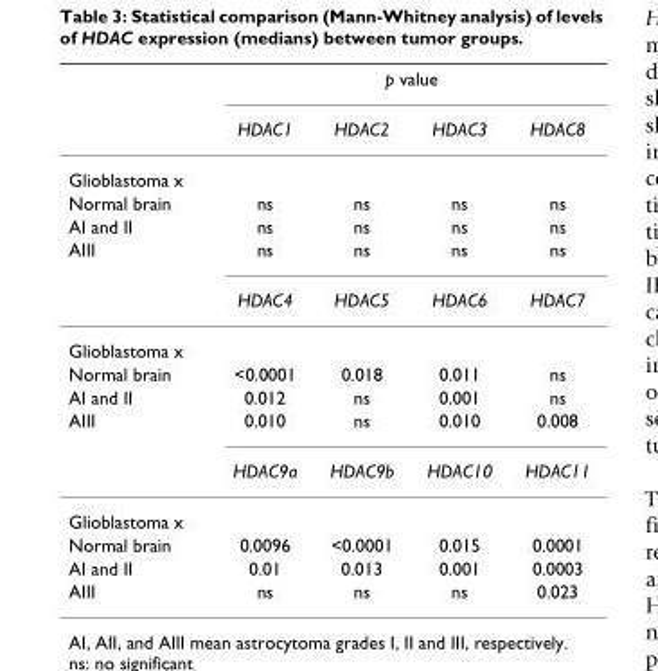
<table><thead><tr><td rowspan="2"></td><td colspan="4">p value</td></tr><tr><td>HDAC1</td><td>HDAC2</td><td>HDAC3</td><td>HDAC8</td></tr></thead><tbody><tr><td colspan="5">Glioblastoma x</td></tr><tr><td>Normal brain</td><td>ns</td><td>ns</td><td>ns</td><td>ns</td></tr><tr><td>AI and II</td><td>ns</td><td>ns</td><td>ns</td><td>ns</td></tr><tr><td rowspan="2">AIII</td><td>ns</td><td>ns</td><td>ns</td><td>ns</td></tr><tr><td>HDAC4</td><td>HDAC5</td><td>HDAC6</td><td>HDAC7</td></tr><tr><td colspan="5">Glioblastoma x</td></tr><tr><td>Normal brain</td><td>&lt;0.0001</td><td>0.018</td><td>0.011</td><td>ns</td></tr><tr><td>AI and II</td><td>0.012</td><td>ns</td><td>0.001</td><td>ns</td></tr><tr><td rowspan="2">AIII</td><td>0.010</td><td>ns</td><td>0.010</td><td>0.008</td></tr><tr><td>HDAC9a</td><td>HDAC9b</td><td>HDAC10</td><td>HDAC11</td></tr><tr><td colspan="5">Glioblastoma x</td></tr><tr><td>Normal brain</td><td>0.0096</td><td>&lt;0.0001</td><td>0.015</td><td>0.0001</td></tr><tr><td>AI and II</td><td>0.01</td><td>0.013</td><td>0.001</td><td>0.0003</td></tr><tr><td>AIII</td><td>ns</td><td>ns</td><td>ns</td><td>0.023</td></tr></tbody></table>